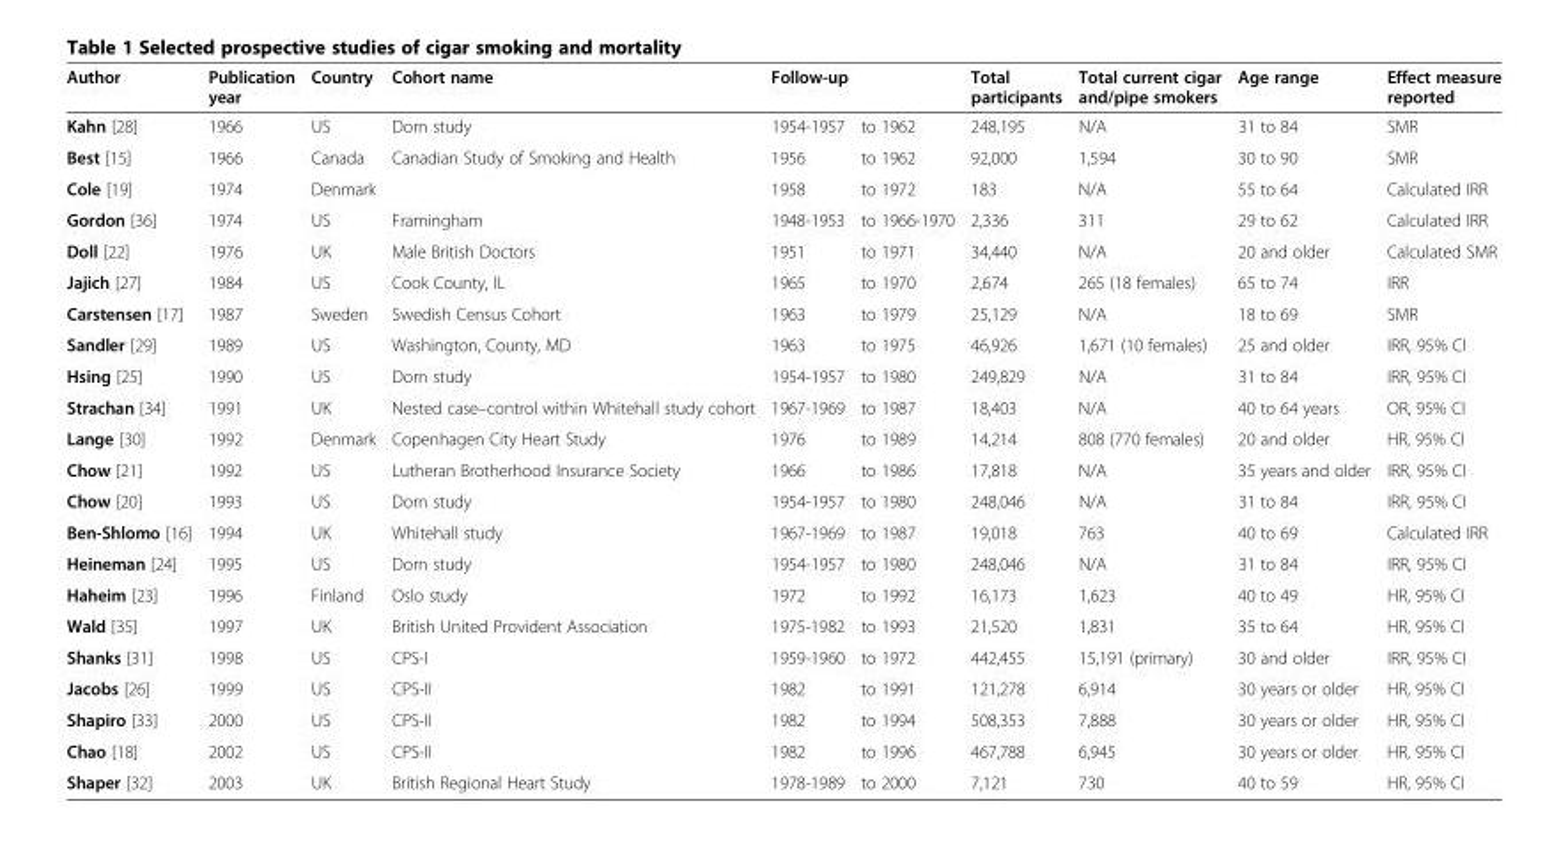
<table><thead><tr><td rowspan="2">Author Kahn [28]</td><td rowspan="2">Publication year 1966</td><td rowspan="2">Country US</td><td rowspan="2">Cohort name Dorn study</td><td colspan="2">Follow-up</td><td rowspan="2">Total participants 248,195</td><td rowspan="2">Total current cigar and/pipe smokers N/A</td><td rowspan="2">Age range 31 to 84</td><td rowspan="2">Effect measure reported SMR</td></tr><tr><td>1954-1957</td><td>to 1962</td></tr></thead><tbody><tr><td>Best [15]</td><td>1966</td><td>Canada</td><td>Canadian Study of Smoking and Health</td><td>1956</td><td>to 1962</td><td>92,000</td><td>1,594</td><td>30 to 90</td><td>SMR</td></tr><tr><td>Cole [19]</td><td>1974</td><td>Denmark</td><td></td><td>1958</td><td>to 1972</td><td>183</td><td>N/A</td><td>55 to 64</td><td>Calculated IRR</td></tr><tr><td>Gordon [36]</td><td>1974</td><td>US</td><td>Framingham</td><td>1948-1953</td><td>to 1966-1970</td><td>2,336</td><td>311</td><td>29 to 62</td><td>Calculated IRR</td></tr><tr><td>Doll [22]</td><td>1976</td><td>UK</td><td>Male British Doctors</td><td>1951</td><td>to 1971</td><td>34,440</td><td>N/A</td><td>20 and older</td><td>Calculated SMR</td></tr><tr><td>Jajich [27]</td><td>1984</td><td>US</td><td>Cook County, IL</td><td>1965</td><td>to 1970</td><td>2,674</td><td>265 (18 females)</td><td>65 to 74</td><td>IRR</td></tr><tr><td>Carstensen [17]</td><td>1987</td><td>Sweden</td><td>Swedish Census Cohort</td><td>1963</td><td>to 1979</td><td>25,129</td><td>N/A</td><td>18 to 69</td><td>SMR</td></tr><tr><td>Sandler [29]</td><td>1989</td><td>US</td><td>Washington, County, MD</td><td>1963</td><td>to 1975</td><td>46,926</td><td>1,671 (10 females)</td><td>25 and older</td><td>IRR, 95% CI</td></tr><tr><td>Hsing [25]</td><td>1990</td><td>US</td><td>Dorn study</td><td>1954-1957</td><td>to 1980</td><td>249,829</td><td>N/A</td><td>31 to 84</td><td>IRR, 95% CI</td></tr><tr><td>Strachan [34]</td><td>1991</td><td>UK</td><td>Nested case–control within Whitehall study cohort</td><td>1967-1969</td><td>to 1987</td><td>18,403</td><td>N/A</td><td>40 to 64 years</td><td>OR, 95% CI</td></tr><tr><td>Lange [30]</td><td>1992</td><td>Denmark</td><td>Copenhagen City Heart Study</td><td>1976</td><td>to 1989</td><td>14,214</td><td>808 (770 females)</td><td>20 and older</td><td>HR, 95% CI</td></tr><tr><td>Chow [21]</td><td>1992</td><td>US</td><td>Lutheran Brotherhood Insurance Society</td><td>1966</td><td>to 1986</td><td>17,818</td><td>N/A</td><td>35 years and older</td><td>IRR, 95% CI</td></tr><tr><td>Chow [20]</td><td>1993</td><td>US</td><td>Dorn study</td><td>1954-1957</td><td>to 1980</td><td>248,046</td><td>N/A</td><td>31 to 84</td><td>IRR, 95% CI</td></tr><tr><td>Ben-Shlomo [16]</td><td>1994</td><td>UK</td><td>Whitehall study</td><td>1967-1969</td><td>to 1987</td><td>19,018</td><td>763</td><td>40 to 69</td><td>Calculated IRR</td></tr><tr><td>Heineman [24]</td><td>1995</td><td>US</td><td>Dorn study</td><td>1954-1957</td><td>to 1980</td><td>248,046</td><td>N/A</td><td>31 to 84</td><td>IRR, 95% CI</td></tr><tr><td>Haheim [23]</td><td>1996</td><td>Finland</td><td>Oslo study</td><td>1972</td><td>to 1992</td><td>16,173</td><td>1,623</td><td>40 to 49</td><td>HR, 95% CI</td></tr><tr><td>Wald [35]</td><td>1997</td><td>UK</td><td>British United Provident Association</td><td>1975-1982</td><td>to 1993</td><td>21,520</td><td>1,831</td><td>35 to 64</td><td>HR, 95% CI</td></tr><tr><td>Shanks [31]</td><td>1998</td><td>US</td><td>CPS-I</td><td>1959-1960</td><td>to 1972</td><td>442,455</td><td>15,191 (primary)</td><td>30 and older</td><td>IRR, 95% CI</td></tr><tr><td>Jacobs [26]</td><td>1999</td><td>US</td><td>CPS-II</td><td>1982</td><td>to 1991</td><td>121,278</td><td>6,914</td><td>30 years or older</td><td>HR, 95% CI</td></tr><tr><td>Shapiro [33]</td><td>2000</td><td>US</td><td>CPS-II</td><td>1982</td><td>to 1994</td><td>508,353</td><td>7,888</td><td>30 years or older</td><td>HR, 95% CI</td></tr><tr><td>Chao [18]</td><td>2002</td><td>US</td><td>CPS-II</td><td>1982</td><td>to 1996</td><td>467,788</td><td>6,945</td><td>30 years or older</td><td>HR, 95% CI</td></tr><tr><td>Shaper [32]</td><td>2003</td><td>UK</td><td>British Regional Heart Study</td><td>1978-1989</td><td>to 2000</td><td>7,121</td><td>730</td><td>40 to 59</td><td>HR, 95% CI</td></tr></tbody></table>